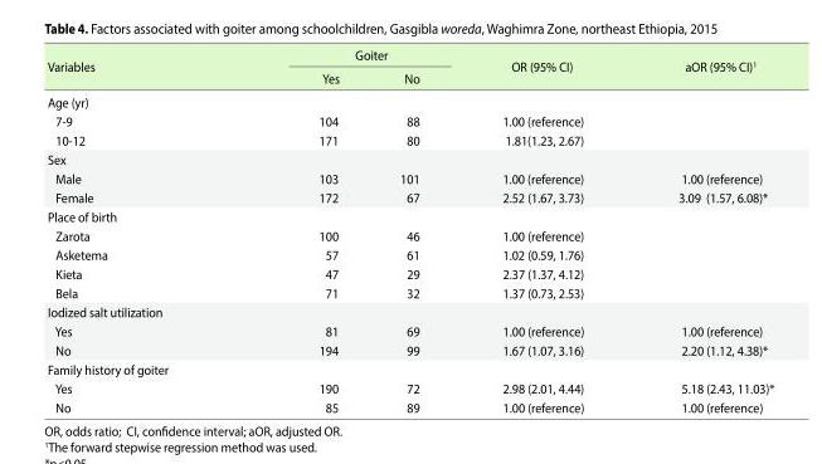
<table><thead><tr><td rowspan="2">Variables</td><td colspan="2">Goiter</td><td rowspan="2">OR (95% CI)</td><td rowspan="2">aOR (95% CI)<sup>1</sup></td></tr><tr><td>Yes</td><td>No</td></tr></thead><tbody><tr><td colspan="5">Age (yr)</td></tr><tr><td>7-9</td><td>104</td><td>88</td><td>1.00 (reference)</td><td></td></tr><tr><td>10-12</td><td>171</td><td>80</td><td>1.81(1.23, 2.67)</td><td></td></tr><tr><td colspan="5">Sex</td></tr><tr><td>Male</td><td>103</td><td>101</td><td>1.00 (reference)</td><td>1.00 (reference)</td></tr><tr><td>Female</td><td>172</td><td>67</td><td>2.52 (1.67, 3.73)</td><td>3.09 (1.57, 6.08)*</td></tr><tr><td colspan="5">Place of birth</td></tr><tr><td>Zarota</td><td>100</td><td>46</td><td>1.00 (reference)</td><td></td></tr><tr><td>Asketema</td><td>57</td><td>61</td><td>1.02 (0.59, 1.76)</td><td></td></tr><tr><td>Kieta</td><td>47</td><td>29</td><td>2.37 (1.37, 4.12)</td><td></td></tr><tr><td>Bela</td><td>71</td><td>32</td><td>1.37 (0.73, 2.53)</td><td></td></tr><tr><td colspan="5">Iodized salt utilization</td></tr><tr><td>Yes</td><td>81</td><td>69</td><td>1.00 (reference)</td><td>1.00 (reference)</td></tr><tr><td>No</td><td>194</td><td>99</td><td>1.67 (1.07, 3.16)</td><td>2.20 (1.12, 4.38)*</td></tr><tr><td colspan="5">Family history of goiter</td></tr><tr><td>Yes</td><td>190</td><td>72</td><td>2.98 (2.01, 4.44)</td><td>5.18 (2.43, 11.03)*</td></tr><tr><td>No</td><td>85</td><td>89</td><td>1.00 (reference)</td><td>1.00 (reference)</td></tr></tbody></table>